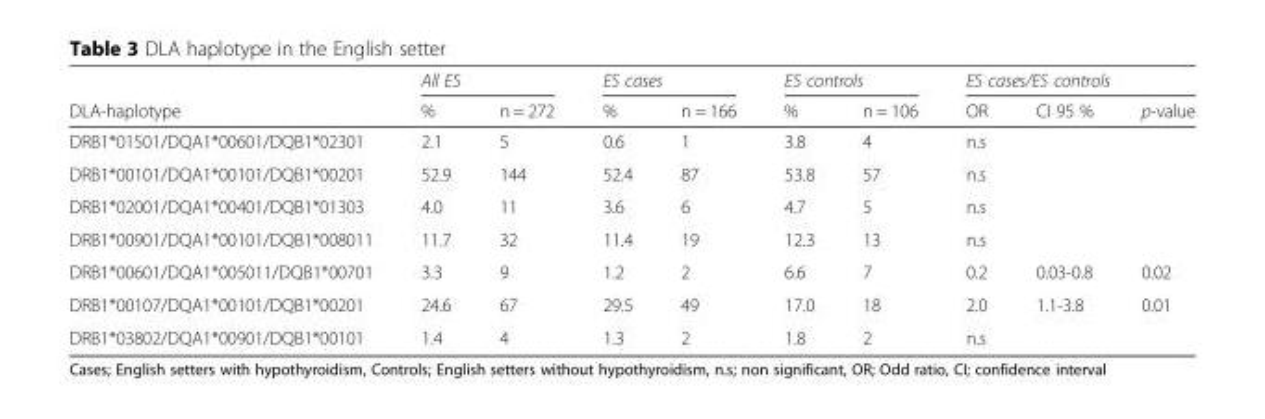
<table><thead><tr><td rowspan="2">DLA-haplotype</td><td colspan="2">All ES</td><td colspan="2">ES cases</td><td colspan="2">ES controls</td><td colspan="3">ES cases/ES controls</td></tr><tr><td>%</td><td>n = 272</td><td>%</td><td>n = 166</td><td>%</td><td>n = 106</td><td>OR</td><td>CI 95 %</td><td>p-value</td></tr></thead><tbody><tr><td>DRB1*01501/DQA1*00601/DQB1*02301</td><td>2.1</td><td>5</td><td>0.6</td><td>1</td><td>3.8</td><td>4</td><td>n.s</td><td></td><td></td></tr><tr><td>DRB1*00101/DQA1*00101/DQB1*00201</td><td>52.9</td><td>144</td><td>52.4</td><td>87</td><td>53.8</td><td>57</td><td>n.s</td><td></td><td></td></tr><tr><td>DRB1*02001/DQA1*00401/DQB1*01303</td><td>4.0</td><td>11</td><td>3.6</td><td>6</td><td>4.7</td><td>5</td><td>n.s</td><td></td><td></td></tr><tr><td>DRB1*00901/DQA1*00101/DQB1*008011</td><td>11.7</td><td>32</td><td>11.4</td><td>19</td><td>12.3</td><td>13</td><td>n.s</td><td></td><td></td></tr><tr><td>DRB1*00601/DQA1*005011/DQB1*00701</td><td>3.3</td><td>9</td><td>1.2</td><td>2</td><td>6.6</td><td>7</td><td>0.2</td><td>0.03-0.8</td><td>0.02</td></tr><tr><td>DRB1*00107/DQA1*00101/DQB1*00201</td><td>24.6</td><td>67</td><td>29.5</td><td>49</td><td>17.0</td><td>18</td><td>2.0</td><td>1.1-3.8</td><td>0.01</td></tr><tr><td>DRB1*03802/DQA1*00901/DQB1*00101</td><td>1.4</td><td>4</td><td>1.3</td><td>2</td><td>1.8</td><td>2</td><td>n.s</td><td></td><td></td></tr></tbody></table>